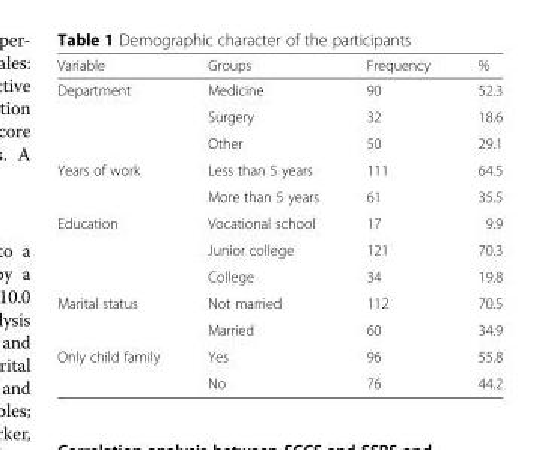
<table><thead><tr><td>Variable</td><td>Groups</td><td>Frequency</td><td>%</td></tr></thead><tbody><tr><td rowspan="3">Department</td><td>Medicine</td><td>90</td><td>52.3</td></tr><tr><td>Surgery</td><td>32</td><td>18.6</td></tr><tr><td>Other</td><td>50</td><td>29.1</td></tr><tr><td rowspan="2">Years of work</td><td>Less than 5 years</td><td>111</td><td>64.5</td></tr><tr><td>More than 5 years</td><td>61</td><td>35.5</td></tr><tr><td rowspan="3">Education</td><td>Vocational school</td><td>17</td><td>9.9</td></tr><tr><td>Junior college</td><td>121</td><td>70.3</td></tr><tr><td>College</td><td>34</td><td>19.8</td></tr><tr><td rowspan="2">Marital status</td><td>Not married</td><td>112</td><td>70.5</td></tr><tr><td>Married</td><td>60</td><td>34.9</td></tr><tr><td rowspan="2">Only child family</td><td>Yes</td><td>96</td><td>55.8</td></tr><tr><td>No</td><td>76</td><td>44.2</td></tr></tbody></table>